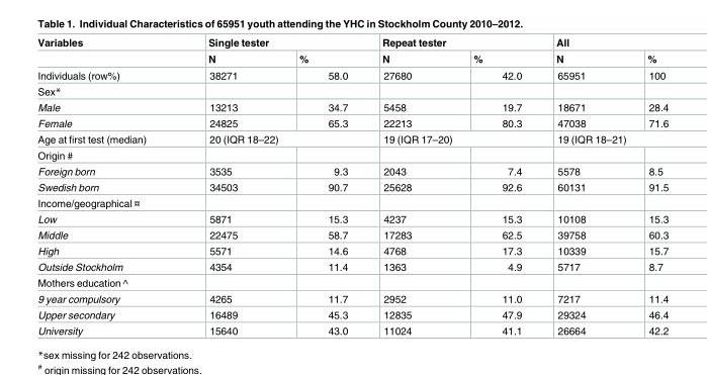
<table><thead><tr><td rowspan="2">Variables</td><td colspan="2">Single tester</td><td colspan="2">Repeat tester</td><td colspan="2">All</td></tr><tr><td>N</td><td>%</td><td>N</td><td>%</td><td>N</td><td>%</td></tr></thead><tbody><tr><td>Individuals (row%)</td><td>38271</td><td>58.0</td><td>27680</td><td>42.0</td><td>65951</td><td>100</td></tr><tr><td colspan="7">Sex*</td></tr><tr><td>Male</td><td>13213</td><td>34.7</td><td>5458</td><td>19.7</td><td>18671</td><td>28.4</td></tr><tr><td>Female</td><td>24825</td><td>65.3</td><td>22213</td><td>80.3</td><td>47038</td><td>71.6</td></tr><tr><td>Age at first test (median)</td><td colspan="2">20 (IQR 18–22)</td><td colspan="2">19 (IQR 17–20)</td><td colspan="2">19 (IQR 18–21)</td></tr><tr><td colspan="7">Origin #</td></tr><tr><td>Foreign born</td><td>3535</td><td>9.3</td><td>2043</td><td>7.4</td><td>5578</td><td>8.5</td></tr><tr><td>Swedish born</td><td>34503</td><td>90.7</td><td>25628</td><td>92.6</td><td>60131</td><td>91.5</td></tr><tr><td colspan="7">Income/geographical ¤</td></tr><tr><td>Low</td><td>5871</td><td>15.3</td><td>4237</td><td>15.3</td><td>10108</td><td>15.3</td></tr><tr><td>Middle</td><td>22475</td><td>58.7</td><td>17283</td><td>62.5</td><td>39758</td><td>60.3</td></tr><tr><td>High</td><td>5571</td><td>14.6</td><td>4768</td><td>17.3</td><td>10339</td><td>15.7</td></tr><tr><td>Outside Stockholm</td><td>4354</td><td>11.4</td><td>1363</td><td>4.9</td><td>5717</td><td>8.7</td></tr><tr><td colspan="7">Mothers education ^</td></tr><tr><td>9 year compulsory</td><td>4265</td><td>11.7</td><td>2952</td><td>11.0</td><td>7217</td><td>11.4</td></tr><tr><td>Upper secondary</td><td>16489</td><td>45.3</td><td>12835</td><td>47.9</td><td>29324</td><td>46.4</td></tr><tr><td>University</td><td>15640</td><td>43.0</td><td>11024</td><td>41.1</td><td>26664</td><td>42.2</td></tr></tbody></table>